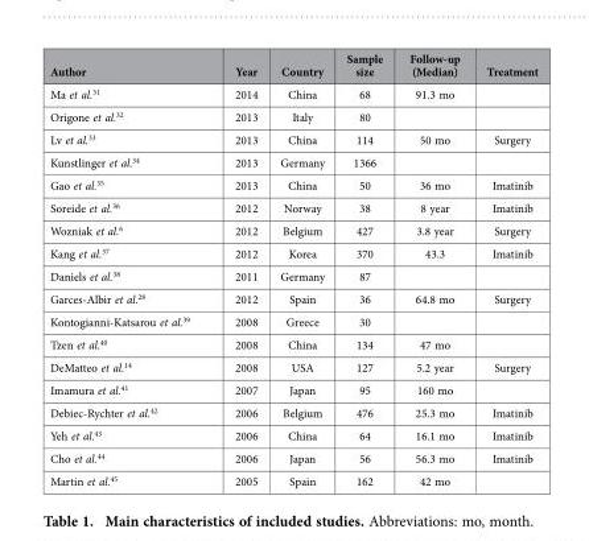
<table><thead><tr><td>Author</td><td>Year</td><td>Country</td><td>Sample size</td><td>Follow-up (Median)</td><td>Treatment</td></tr></thead><tbody><tr><td>Ma et al.<sup>31</sup></td><td>2014</td><td>China</td><td>68</td><td>91.3 mo</td><td></td></tr><tr><td>Origone et al.<sup>32</sup></td><td>2013</td><td>Italy</td><td>80</td><td></td><td></td></tr><tr><td>Lv et al.<sup>33</sup></td><td>2013</td><td>China</td><td>114</td><td>50 mo</td><td>Surgery</td></tr><tr><td>Kunstlinger et al.<sup>34</sup></td><td>2013</td><td>Germany</td><td>1366</td><td></td><td></td></tr><tr><td>Gao et al.<sup>35</sup></td><td>2013</td><td>China</td><td>50</td><td>36 mo</td><td>Imatinib</td></tr><tr><td>Soreide et al.<sup>36</sup></td><td>2012</td><td>Norway</td><td>38</td><td>8 year</td><td>Imatinib</td></tr><tr><td>Wozniak et al.<sup>6</sup></td><td>2012</td><td>Belgium</td><td>427</td><td>3.8 year</td><td>Surgery</td></tr><tr><td>Kang et al.<sup>37</sup></td><td>2012</td><td>Korea</td><td>370</td><td>43.3</td><td>Imatinib</td></tr><tr><td>Daniels et al.<sup>38</sup></td><td>2011</td><td>Germany</td><td>87</td><td></td><td></td></tr><tr><td>Garces-Albir et al.<sup>28</sup></td><td>2012</td><td>Spain</td><td>36</td><td>64.8 mo</td><td>Surgery</td></tr><tr><td>Kontogianni-Katsarou et al.<sup>39</sup></td><td>2008</td><td>Greece</td><td>30</td><td></td><td></td></tr><tr><td>Tzen et al.<sup>40</sup></td><td>2008</td><td>China</td><td>134</td><td>47 mo</td><td></td></tr><tr><td>DeMatteo et al.<sup>14</sup></td><td>2008</td><td>USA</td><td>127</td><td>5.2 year</td><td>Surgery</td></tr><tr><td>Imamura et al.<sup>41</sup></td><td>2007</td><td>Japan</td><td>95</td><td>160 mo</td><td></td></tr><tr><td>Debiec-Rychter et al.<sup>42</sup></td><td>2006</td><td>Belgium</td><td>476</td><td>25.3 mo</td><td>Imatinib</td></tr><tr><td>Yeh et al.<sup>43</sup></td><td>2006</td><td>China</td><td>64</td><td>16.1 mo</td><td>Imatinib</td></tr><tr><td>Cho et al.<sup>44</sup></td><td>2006</td><td>Japan</td><td>56</td><td>56.3 mo</td><td>Imatinib</td></tr><tr><td>Martin et al.<sup>45</sup></td><td>2005</td><td>Spain</td><td>162</td><td>42 mo</td><td></td></tr></tbody></table>